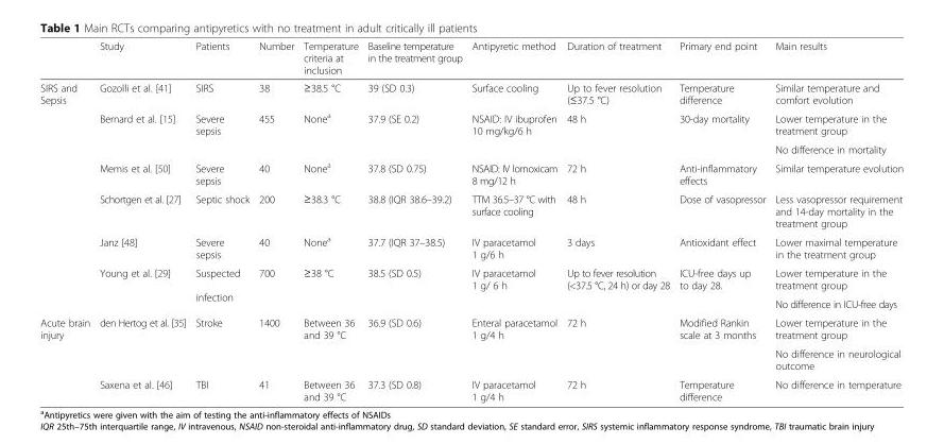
<table><thead><tr><td></td><td>Study</td><td>Patients</td><td>Number</td><td>Temperature criteria at inclusion</td><td>Baseline temperature in the treatment group</td><td>Antipyretic method</td><td>Duration of treatment</td><td>Primary end point</td><td>Main results</td></tr></thead><tbody><tr><td rowspan="8">SIRS and Sepsis</td><td>Gozolli et al. [41]</td><td>SIRS</td><td>38</td><td>≥38.5 °C</td><td>39 (SD 0.3)</td><td>Surface cooling</td><td>Up to fever resolution (≤37.5 °C)</td><td>Temperature difference</td><td>Similar temperature and comfort evolution</td></tr><tr><td rowspan="2">Bernard et al. [15]</td><td rowspan="2">Severe sepsis</td><td rowspan="2">455</td><td rowspan="2">None<sup>a</sup></td><td rowspan="2">37.9 (SE 0.2)</td><td rowspan="2">NSAID: IV ibuprofen 10 mg/kg/6 h</td><td rowspan="2">48 h</td><td rowspan="2">30-day mortality</td><td>Lower temperature in the treatment group</td></tr><tr><td>No difference in mortality</td></tr><tr><td>Memis et al. [50]</td><td>Severe sepsis</td><td>40</td><td>None<sup>a</sup></td><td>37.8 (SD 0.75)</td><td>NSAID: IV lornoxicam 8 mg/12 h</td><td>72 h</td><td>Anti-inflammatory effects</td><td>Similar temperature evolution</td></tr><tr><td>Schortgen et al. [27]</td><td>Septic shock</td><td>200</td><td>≥38.3 °C</td><td>38.8 (IQR 38.6–39.2)</td><td>TTM 36.5–37 °C with surface cooling</td><td>48 h</td><td>Dose of vasopressor</td><td>Less vasopressor requirement and 14-day mortality in the treatment group</td></tr><tr><td>Janz [48]</td><td>Severe sepsis</td><td>40</td><td>None<sup>a</sup></td><td>37.7 (IQR 37–38.5)</td><td>IV paracetamol 1 g/6 h</td><td>3 days</td><td>Antioxidant effect</td><td>Lower maximal temperature in the treatment group</td></tr><tr><td rowspan="2">Young et al. [29]</td><td rowspan="2">Suspected infection</td><td rowspan="2">700</td><td rowspan="2">≥38 °C</td><td rowspan="2">38.5 (SD 0.5)</td><td rowspan="2">IV paracetamol 1 g/ 6 h</td><td rowspan="2">Up to fever resolution (&lt;37.5 °C, 24 h) or day 28</td><td rowspan="2">ICU-free days up to day 28.</td><td>Lower temperature in the treatment group</td></tr><tr><td>No difference in ICU-free days</td></tr><tr><td rowspan="3">Acute brain injury</td><td rowspan="2">den Hertog et al. [35]</td><td rowspan="2">Stroke</td><td rowspan="2">1400</td><td rowspan="2">Between 36 and 39 °C</td><td rowspan="2">36.9 (SD 0.6)</td><td rowspan="2">Enteral paracetamol 1 g/4 h</td><td rowspan="2">72 h</td><td rowspan="2">Modified Rankin scale at 3 months</td><td>Lower temperature in the treatment group</td></tr><tr><td>No difference in neurological outcome</td></tr><tr><td>Saxena et al. [46]</td><td>TBI</td><td>41</td><td>Between 36 and 39 °C</td><td>37.3 (SD 0.8)</td><td>IV paracetamol 1 g/4 h</td><td>72 h</td><td>Temperature difference</td><td>No difference in temperature</td></tr></tbody></table>